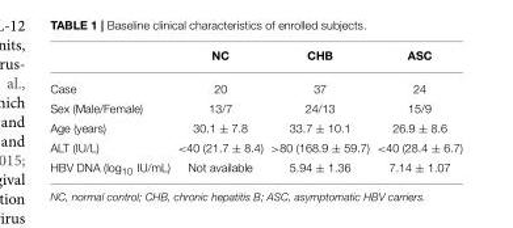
<table><thead><tr><td></td><td>NC</td><td>CHB</td><td>ASC</td></tr></thead><tbody><tr><td>Case</td><td>20</td><td>37</td><td>24</td></tr><tr><td>Sex (Male/Female)</td><td>13/7</td><td>24/13</td><td>15/9</td></tr><tr><td>Age (years)</td><td>30.1 ± 7.8</td><td>33.7 ± 10.1</td><td>26.9 ± 8.6</td></tr><tr><td>ALT (IU/L)</td><td>&lt;40 (21.7 ± 8.4)</td><td>&gt;80 (168.9 ± 59.7)</td><td>&lt;40 (28.4 ± 6.7)</td></tr><tr><td>HBV DNA (log<sub>10</sub> IU/mL)</td><td>Not available</td><td>5.94 ± 1.36</td><td>7.14 ± 1.07</td></tr></tbody></table>